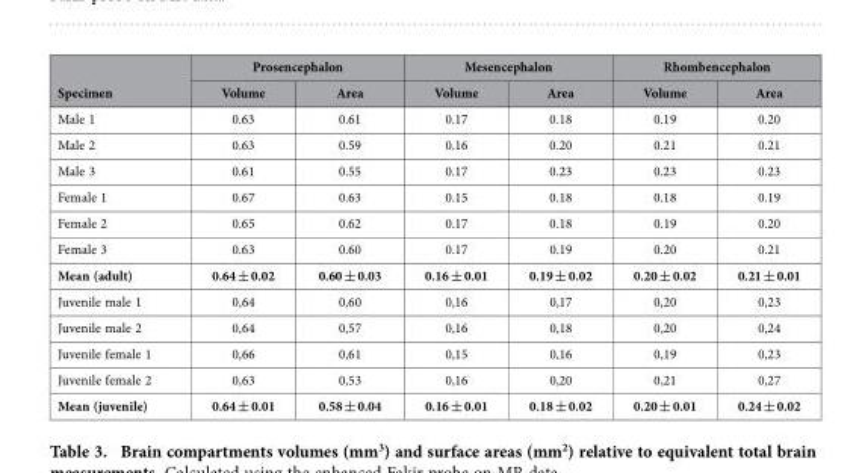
<table><thead><tr><td rowspan="2">Specimen</td><td colspan="2">Prosencephalon</td><td colspan="2">Mesencephalon</td><td colspan="2">Rhombencephalon</td></tr><tr><td>Volume</td><td>Area</td><td>Volume</td><td>Area</td><td>Volume</td><td>Area</td></tr></thead><tbody><tr><td>Male 1</td><td>0.63</td><td>0.61</td><td>0.17</td><td>0.18</td><td>0.19</td><td>0.20</td></tr><tr><td>Male 2</td><td>0.63</td><td>0.59</td><td>0.16</td><td>0.20</td><td>0.21</td><td>0.21</td></tr><tr><td>Male 3</td><td>0.61</td><td>0.55</td><td>0.17</td><td>0.23</td><td>0.23</td><td>0.23</td></tr><tr><td>Female 1</td><td>0.67</td><td>0.63</td><td>0.15</td><td>0.18</td><td>0.18</td><td>0.19</td></tr><tr><td>Female 2</td><td>0.65</td><td>0.62</td><td>0.17</td><td>0.18</td><td>0.19</td><td>0.20</td></tr><tr><td>Female 3</td><td>0.63</td><td>0.60</td><td>0.17</td><td>0.19</td><td>0.20</td><td>0.21</td></tr><tr><td>Mean (adult)</td><td>0.64 ± 0.02</td><td>0.60 ± 0.03</td><td>0.16 ± 0.01</td><td>0.19 ± 0.02</td><td>0.20 ± 0.02</td><td>0.21 ± 0.01</td></tr><tr><td>Juvenile male 1</td><td>0,64</td><td>0,60</td><td>0,16</td><td>0,17</td><td>0,20</td><td>0,23</td></tr><tr><td>Juvenile male 2</td><td>0,64</td><td>0,57</td><td>0,16</td><td>0,18</td><td>0,20</td><td>0,24</td></tr><tr><td>Juvenile female 1</td><td>0,66</td><td>0,61</td><td>0,15</td><td>0,16</td><td>0,19</td><td>0,23</td></tr><tr><td>Juvenile female 2</td><td>0,63</td><td>0,53</td><td>0,16</td><td>0,20</td><td>0,21</td><td>0,27</td></tr><tr><td>Mean (juvenile)</td><td>0.64 ± 0.01</td><td>0.58 ± 0.04</td><td>0.16 ± 0.01</td><td>0.18 ± 0.02</td><td>0.20 ± 0.01</td><td>0.24 ± 0.02</td></tr></tbody></table>